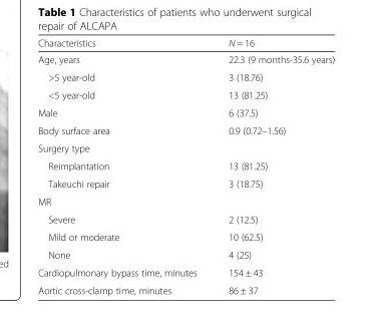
<table><thead><tr><td>Characteristics</td><td>N = 16</td></tr></thead><tbody><tr><td>Age, years</td><td>22.3 (9 months-35.6 years)</td></tr><tr><td>&gt;5 year-old</td><td>3 (18.76)</td></tr><tr><td>&lt;5 year-old</td><td>13 (81.25)</td></tr><tr><td>Male</td><td>6 (37.5)</td></tr><tr><td>Body surface area</td><td>0.9 (0.72–1.56)</td></tr><tr><td colspan="2">Surgery type</td></tr><tr><td>Reimplantation</td><td>13 (81.25)</td></tr><tr><td>Takeuchi repair</td><td>3 (18.75)</td></tr><tr><td colspan="2">MR</td></tr><tr><td>Severe</td><td>2 (12.5)</td></tr><tr><td>Mild or moderate</td><td>10 (62.5)</td></tr><tr><td>None</td><td>4 (25)</td></tr><tr><td>Cardiopulmonary bypass time, minutes</td><td>154 ± 43</td></tr><tr><td>Aortic cross-clamp time, minutes</td><td>86 ± 37</td></tr></tbody></table>